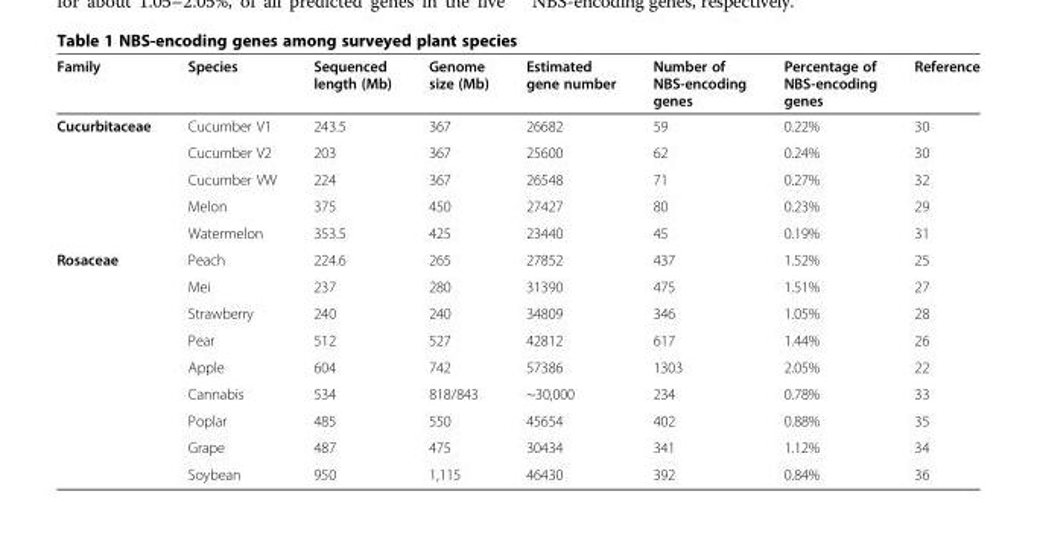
<table><thead><tr><td>Family</td><td>Species</td><td>Sequenced length (Mb)</td><td>Genome size (Mb)</td><td>Estimated gene number</td><td>Number of NBS-encoding genes</td><td>Percentage of NBS-encoding genes</td><td>Reference</td></tr></thead><tbody><tr><td rowspan="5">Cucurbitaceae</td><td>Cucumber V1</td><td>243.5</td><td>367</td><td>26682</td><td>59</td><td>0.22%</td><td>30</td></tr><tr><td>Cucumber V2</td><td>203</td><td>367</td><td>25600</td><td>62</td><td>0.24%</td><td>30</td></tr><tr><td>Cucumber VW</td><td>224</td><td>367</td><td>26548</td><td>71</td><td>0.27%</td><td>32</td></tr><tr><td>Melon</td><td>375</td><td>450</td><td>27427</td><td>80</td><td>0.23%</td><td>29</td></tr><tr><td>Watermelon</td><td>353.5</td><td>425</td><td>23440</td><td>45</td><td>0.19%</td><td>31</td></tr><tr><td rowspan="9">Rosaceae</td><td>Peach</td><td>224.6</td><td>265</td><td>27852</td><td>437</td><td>1.52%</td><td>25</td></tr><tr><td>Mei</td><td>237</td><td>280</td><td>31390</td><td>475</td><td>1.51%</td><td>27</td></tr><tr><td>Strawberry</td><td>240</td><td>240</td><td>34809</td><td>346</td><td>1.05%</td><td>28</td></tr><tr><td>Pear</td><td>512</td><td>527</td><td>42812</td><td>617</td><td>1.44%</td><td>26</td></tr><tr><td>Apple</td><td>604</td><td>742</td><td>57386</td><td>1303</td><td>2.05%</td><td>22</td></tr><tr><td>Cannabis</td><td>534</td><td>818/843</td><td>~30,000</td><td>234</td><td>0.78%</td><td>33</td></tr><tr><td>Poplar</td><td>485</td><td>550</td><td>45654</td><td>402</td><td>0.88%</td><td>35</td></tr><tr><td>Grape</td><td>487</td><td>475</td><td>30434</td><td>341</td><td>1.12%</td><td>34</td></tr><tr><td>Soybean</td><td>950</td><td>1,115</td><td>46430</td><td>392</td><td>0.84%</td><td>36</td></tr></tbody></table>